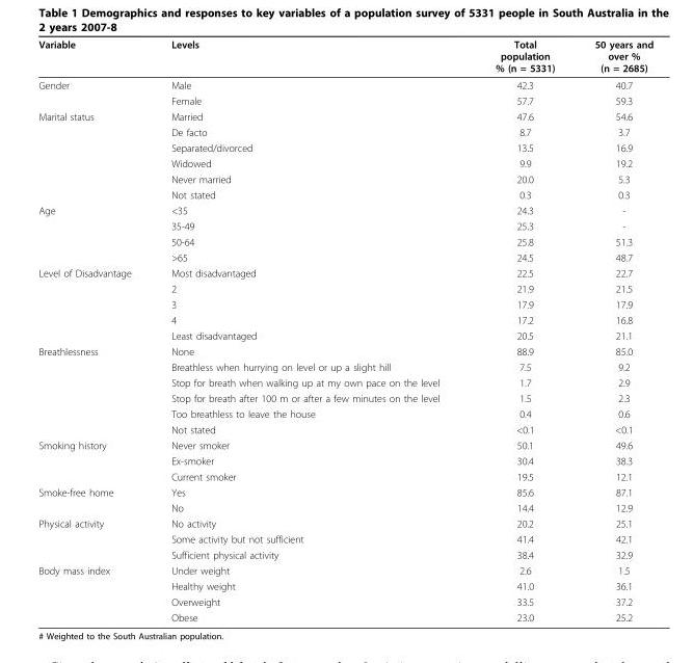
<table><thead><tr><td>Variable</td><td>Levels</td><td>Total population % (n = 5331)</td><td>50 years and over % (n = 2685)</td></tr></thead><tbody><tr><td rowspan="2">Gender</td><td>Male</td><td>42.3</td><td>40.7</td></tr><tr><td>Female</td><td>57.7</td><td>59.3</td></tr><tr><td rowspan="6">Marital status</td><td>Married</td><td>47.6</td><td>54.6</td></tr><tr><td>De facto</td><td>8.7</td><td>3.7</td></tr><tr><td>Separated/divorced</td><td>13.5</td><td>16.9</td></tr><tr><td>Widowed</td><td>9.9</td><td>19.2</td></tr><tr><td>Never married</td><td>20.0</td><td>5.3</td></tr><tr><td>Not stated</td><td>0.3</td><td>0.3</td></tr><tr><td rowspan="4">Age</td><td>&lt;35</td><td>24.3</td><td>-</td></tr><tr><td>35-49</td><td>25.3</td><td>-</td></tr><tr><td>50-64</td><td>25.8</td><td>51.3</td></tr><tr><td>&gt;65</td><td>24.5</td><td>48.7</td></tr><tr><td rowspan="5">Level of Disadvantage</td><td>Most disadvantaged</td><td>22.5</td><td>22.7</td></tr><tr><td>2</td><td>21.9</td><td>21.5</td></tr><tr><td>3</td><td>17.9</td><td>17.9</td></tr><tr><td>4</td><td>17.2</td><td>16.8</td></tr><tr><td>Least disadvantaged</td><td>20.5</td><td>21.1</td></tr><tr><td rowspan="6">Breathlessness</td><td>None</td><td>88.9</td><td>85.0</td></tr><tr><td>Breathless when hurrying on level or up a slight hill</td><td>7.5</td><td>9.2</td></tr><tr><td>Stop for breath when walking up at my own pace on the level</td><td>1.7</td><td>2.9</td></tr><tr><td>Stop for breath after 100 m or after a few minutes on the level</td><td>1.5</td><td>2.3</td></tr><tr><td>Too breathless to leave the house</td><td>0.4</td><td>0.6</td></tr><tr><td>Not stated</td><td>&lt;0.1</td><td>&lt;0.1</td></tr><tr><td rowspan="3">Smoking history</td><td>Never smoker</td><td>50.1</td><td>49.6</td></tr><tr><td>Ex-smoker</td><td>30.4</td><td>38.3</td></tr><tr><td>Current smoker</td><td>19.5</td><td>12.1</td></tr><tr><td rowspan="2">Smoke-free home</td><td>Yes</td><td>85.6</td><td>87.1</td></tr><tr><td>No</td><td>14.4</td><td>12.9</td></tr><tr><td rowspan="3">Physical activity</td><td>No activity</td><td>20.2</td><td>25.1</td></tr><tr><td>Some activity but not sufficient</td><td>41.4</td><td>42.1</td></tr><tr><td>Sufficient physical activity</td><td>38.4</td><td>32.9</td></tr><tr><td rowspan="4">Body mass index</td><td>Under weight</td><td>2.6</td><td>1.5</td></tr><tr><td>Healthy weight</td><td>41.0</td><td>36.1</td></tr><tr><td>Overweight</td><td>33.5</td><td>37.2</td></tr><tr><td>Obese</td><td>23.0</td><td>25.2</td></tr></tbody></table>